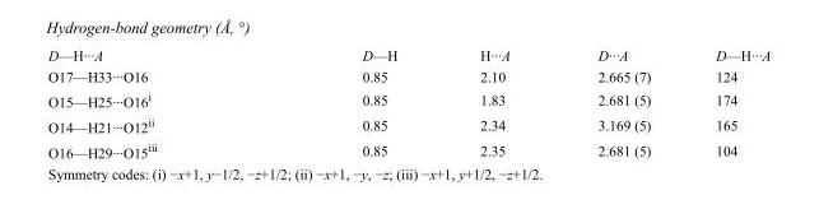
<table><tbody><tr><td>D—H···A</td><td>D—H</td><td>H···A</td><td>D···A</td><td>D—H···A</td></tr><tr><td>O17—H33···O16</td><td>0.85</td><td>2.10</td><td>2.665 (7)</td><td>124</td></tr><tr><td>O15—H25···O16<sup>i</sup></td><td>0.85</td><td>1.83</td><td>2.681 (5)</td><td>174</td></tr><tr><td>O14—H21···O12<sup>ii</sup></td><td>0.85</td><td>2.34</td><td>3.169 (5)</td><td>165</td></tr><tr><td>O16—H29···O15<sup>iii</sup></td><td>0.85</td><td>2.35</td><td>2.681 (5)</td><td>104</td></tr></tbody></table>